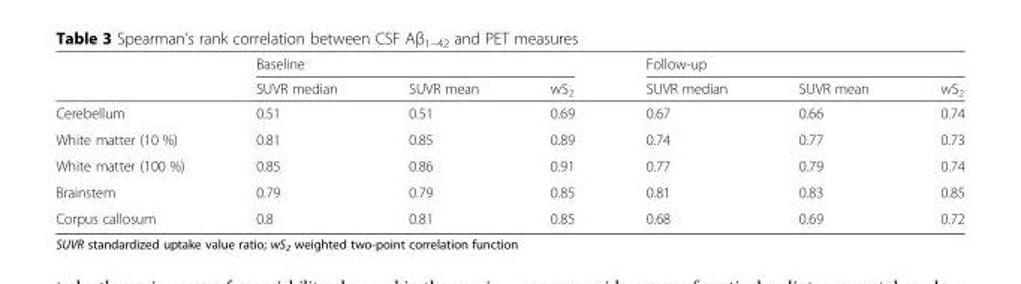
<table><thead><tr><td rowspan="2"></td><td colspan="3">Baseline</td><td colspan="3">Follow-up</td></tr><tr><td>SUVR median</td><td>SUVR mean</td><td>wS<sub>2</sub></td><td>SUVR median</td><td>SUVR mean</td><td>wS<sub>2</sub></td></tr></thead><tbody><tr><td>Cerebellum</td><td>0.51</td><td>0.51</td><td>0.69</td><td>0.67</td><td>0.66</td><td>0.74</td></tr><tr><td>White matter (10 %)</td><td>0.81</td><td>0.85</td><td>0.89</td><td>0.74</td><td>0.77</td><td>0.73</td></tr><tr><td>White matter (100 %)</td><td>0.85</td><td>0.86</td><td>0.91</td><td>0.77</td><td>0.79</td><td>0.74</td></tr><tr><td>Brainstem</td><td>0.79</td><td>0.79</td><td>0.85</td><td>0.81</td><td>0.83</td><td>0.85</td></tr><tr><td>Corpus callosum</td><td>0.8</td><td>0.81</td><td>0.85</td><td>0.68</td><td>0.69</td><td>0.72</td></tr></tbody></table>